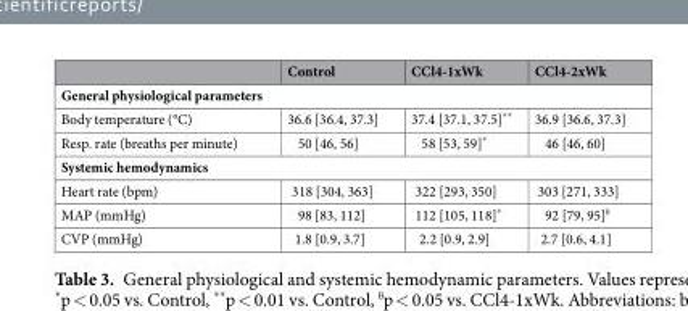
<table><thead><tr><td></td><td>Control</td><td>CCl4-1xWk</td><td>CCl4-2xWk</td></tr></thead><tbody><tr><td colspan="4">General physiological parameters</td></tr><tr><td>Body temperature (°C)</td><td>36.6 [36.4, 37.3]</td><td>37.4 [37.1, 37.5]**</td><td>36.9 [36.6, 37.3]</td></tr><tr><td>Resp. rate (breaths per minute)</td><td>50 [46, 56]</td><td>58 [53, 59]*</td><td>46 [46, 60]</td></tr><tr><td colspan="4">Systemic hemodynamics</td></tr><tr><td>Heart rate (bpm)</td><td>318 [304, 363]</td><td>322 [293, 350]</td><td>303 [271, 333]</td></tr><tr><td>MAP (mmHg)</td><td>98 [83, 112]</td><td>112 [105, 118]*</td><td>92 [79, 95]<sup>θ</sup></td></tr><tr><td>CVP (mmHg)</td><td>1.8 [0.9, 3.7]</td><td>2.2 [0.9, 2.9]</td><td>2.7 [0.6, 4.1]</td></tr></tbody></table>